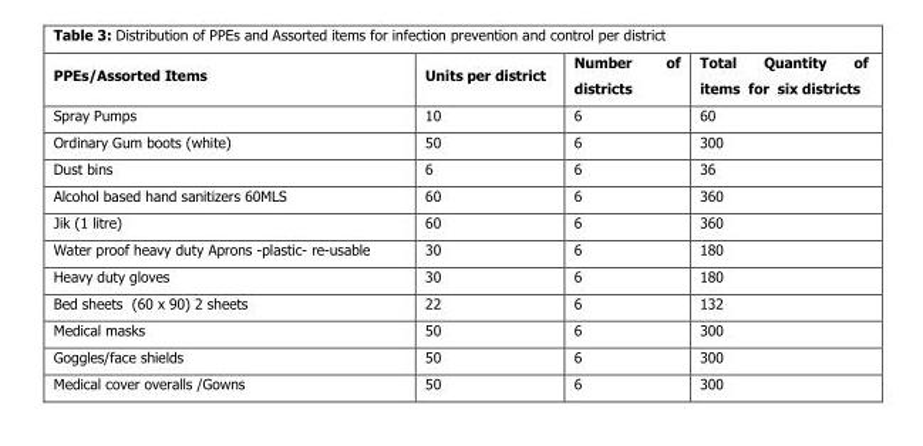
<table><thead><tr><td>PPEs/Assorted Items</td><td>Units per district</td><td>Number of districts</td><td>Total Quantity of items for six districts</td></tr></thead><tbody><tr><td>Spray Pumps</td><td>10</td><td>6</td><td>60</td></tr><tr><td>Ordinary Gum boots (white)</td><td>50</td><td>6</td><td>300</td></tr><tr><td>Dust bins</td><td>6</td><td>6</td><td>36</td></tr><tr><td>Alcohol based hand sanitizers 60MLS</td><td>60</td><td>6</td><td>360</td></tr><tr><td>Jik (1 litre)</td><td>60</td><td>6</td><td>360</td></tr><tr><td>Water proof heavy duty Aprons -plastic- re-usable</td><td>30</td><td>6</td><td>180</td></tr><tr><td>Heavy duty gloves</td><td>30</td><td>6</td><td>180</td></tr><tr><td>Bed sheets (60 x 90) 2 sheets</td><td>22</td><td>6</td><td>132</td></tr><tr><td>Medical masks</td><td>50</td><td>6</td><td>300</td></tr><tr><td>Goggles/face shields</td><td>50</td><td>6</td><td>300</td></tr><tr><td>Medical cover overalls /Gowns</td><td>50</td><td>6</td><td>300</td></tr></tbody></table>